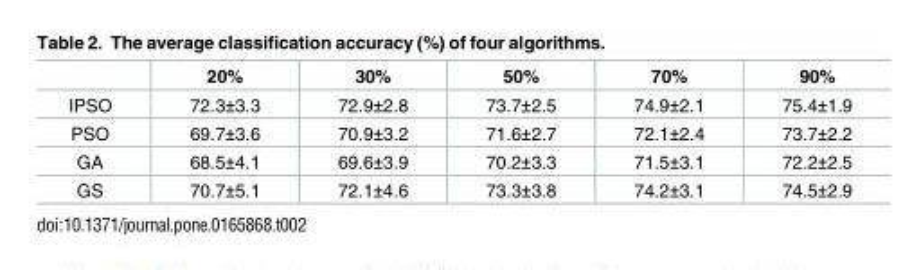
<table><thead><tr><td></td><td>20%</td><td>30%</td><td>50%</td><td>70%</td><td>90%</td></tr></thead><tbody><tr><td>IPSO</td><td>72.3±3.3</td><td>72.9±2.8</td><td>73.7±2.5</td><td>74.9±2.1</td><td>75.4±1.9</td></tr><tr><td>PSO</td><td>69.7±3.6</td><td>70.9±3.2</td><td>71.6±2.7</td><td>72.1±2.4</td><td>73.7±2.2</td></tr><tr><td>GA</td><td>68.5±4.1</td><td>69.6±3.9</td><td>70.2±3.3</td><td>71.5±3.1</td><td>72.2±2.5</td></tr><tr><td>GS</td><td>70.7±5.1</td><td>72.1±4.6</td><td>73.3±3.8</td><td>74.2±3.1</td><td>74.5±2.9</td></tr></tbody></table>